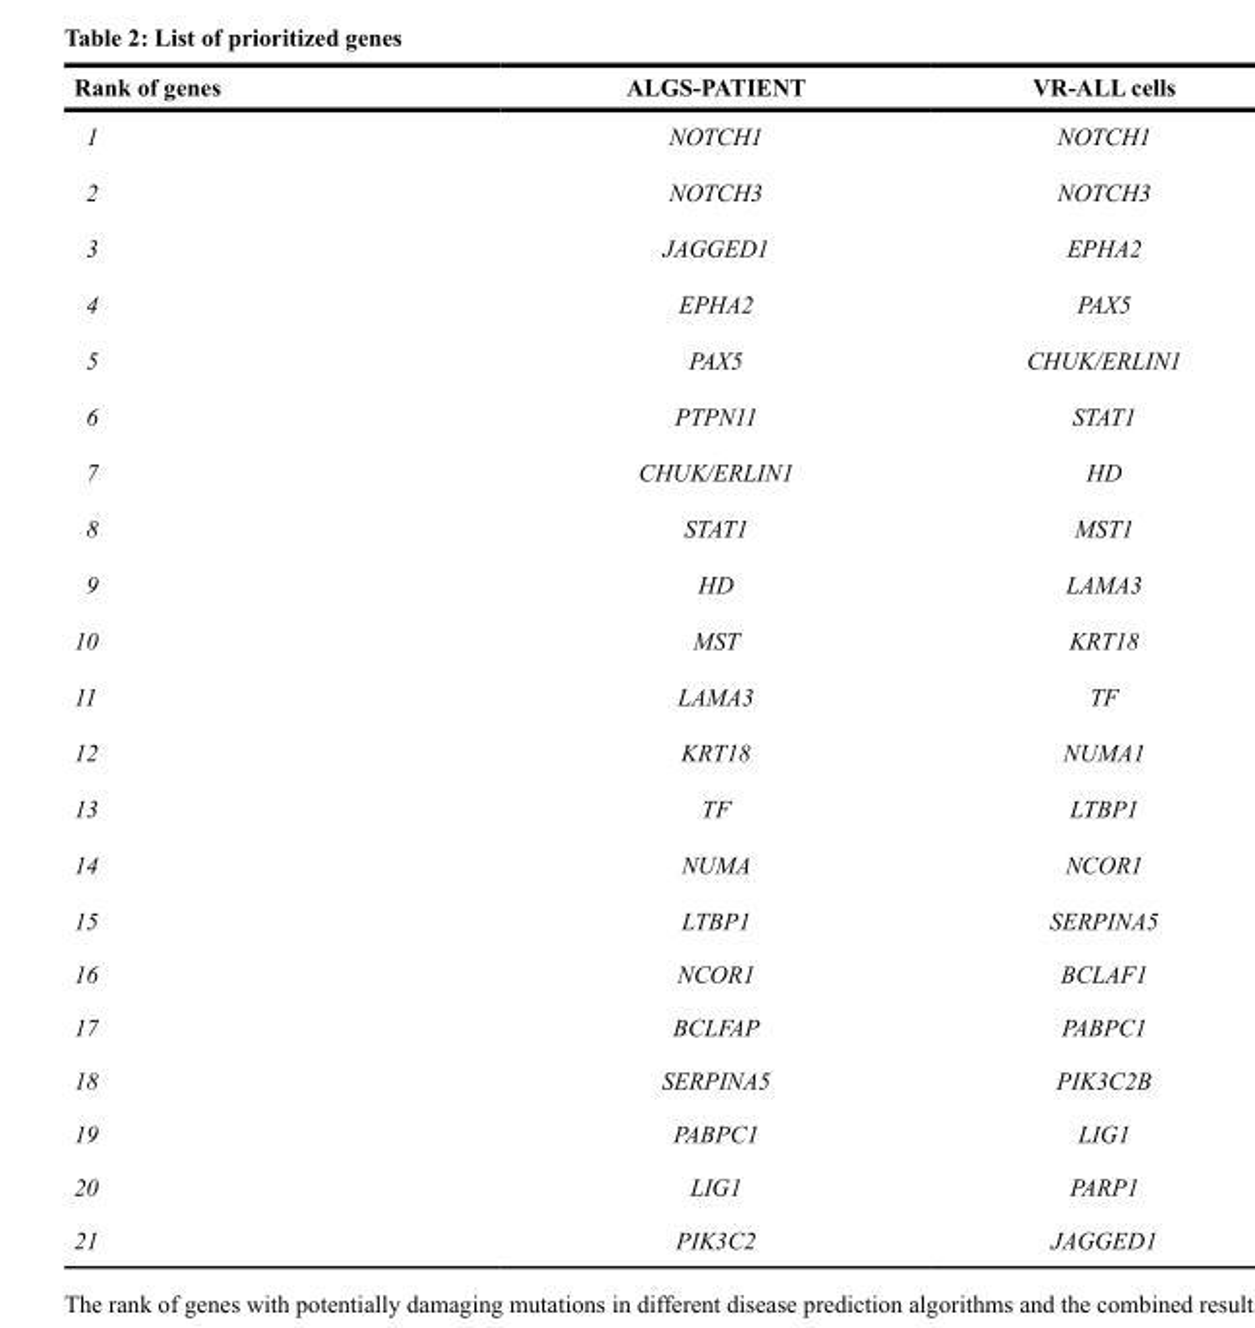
<table><thead><tr><td>Rank of genes</td><td>ALGS-PATIENT</td><td>VR-ALL cells</td></tr></thead><tbody><tr><td>1</td><td>NOTCH1</td><td>NOTCH1</td></tr><tr><td>2</td><td>NOTCH3</td><td>NOTCH3</td></tr><tr><td>3</td><td>JAGGED1</td><td>EPHA2</td></tr><tr><td>4</td><td>EPHA2</td><td>PAX5</td></tr><tr><td>5</td><td>PAX5</td><td>CHUK/ERLIN1</td></tr><tr><td>6</td><td>PTPN11</td><td>STAT1</td></tr><tr><td>7</td><td>CHUK/ERLIN1</td><td>HD</td></tr><tr><td>8</td><td>STAT1</td><td>MST1</td></tr><tr><td>9</td><td>HD</td><td>LAMA3</td></tr><tr><td>10</td><td>MST</td><td>KRT18</td></tr><tr><td>11</td><td>LAMA3</td><td>TF</td></tr><tr><td>12</td><td>KRT18</td><td>NUMA1</td></tr><tr><td>13</td><td>TF</td><td>LTBP1</td></tr><tr><td>14</td><td>NUMA</td><td>NCOR1</td></tr><tr><td>15</td><td>LTBP1</td><td>SERPINA5</td></tr><tr><td>16</td><td>NCOR1</td><td>BCLAF1</td></tr><tr><td>17</td><td>BCLFAP</td><td>PABPC1</td></tr><tr><td>18</td><td>SERPINA5</td><td>PIK3C2B</td></tr><tr><td>19</td><td>PABPC1</td><td>LIG1</td></tr><tr><td>20</td><td>LIG1</td><td>PARP1</td></tr><tr><td>21</td><td>PIK3C2</td><td>JAGGED1</td></tr></tbody></table>